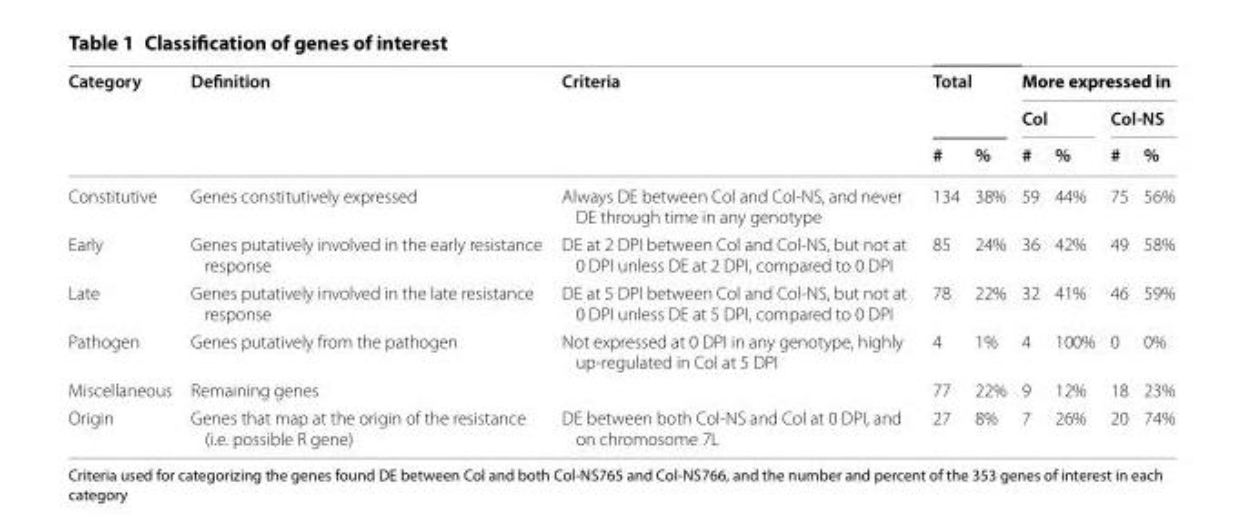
<table><thead><tr><td rowspan="3">Category</td><td rowspan="3">Definition</td><td rowspan="3">Criteria</td><td rowspan="2" colspan="2">Total</td><td colspan="4">More expressed in</td></tr><tr><td colspan="2">Col</td><td colspan="2">Col-NS</td></tr><tr><td>#</td><td>%</td><td>#</td><td>%</td><td>#</td><td>%</td></tr></thead><tbody><tr><td>Constitutive</td><td>Genes constitutively expressed</td><td>Always DE between Col and Col-NS, and never DE through time in any genotype</td><td>134</td><td>38%</td><td>59</td><td>44%</td><td>75</td><td>56%</td></tr><tr><td>Early</td><td>Genes putatively involved in the early resistance response</td><td>DE at 2 DPI between Col and Col-NS, but not at 0 DPI unless DE at 2 DPI, compared to 0 DPI</td><td>85</td><td>24%</td><td>36</td><td>42%</td><td>49</td><td>58%</td></tr><tr><td>Late</td><td>Genes putatively involved in the late resistance response</td><td>DE at 5 DPI between Col and Col-NS, but not at 0 DPI unless DE at 5 DPI, compared to 0 DPI</td><td>78</td><td>22%</td><td>32</td><td>41%</td><td>46</td><td>59%</td></tr><tr><td>Pathogen</td><td>Genes putatively from the pathogen</td><td>Not expressed at 0 DPI in any genotype, highly up-regulated in Col at 5 DPI</td><td>4</td><td>1%</td><td>4</td><td>100%</td><td>0</td><td>0%</td></tr><tr><td>Miscellaneous</td><td>Remaining genes</td><td></td><td>77</td><td>22%</td><td>9</td><td>12%</td><td>18</td><td>23%</td></tr><tr><td>Origin</td><td>Genes that map at the origin of the resistance (i.e. possible R gene)</td><td>DE between both Col-NS and Col at 0 DPI, and on chromosome 7L</td><td>27</td><td>8%</td><td>7</td><td>26%</td><td>20</td><td>74%</td></tr></tbody></table>